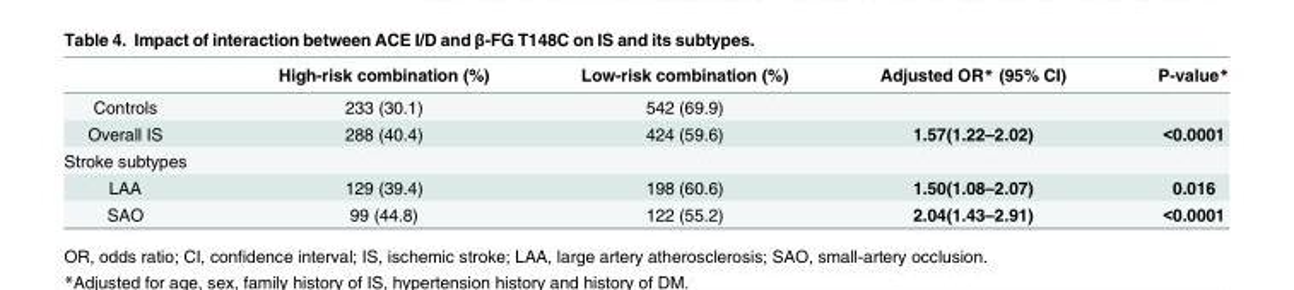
<table><thead><tr><td></td><td>High-risk combination (%)</td><td>Low-risk combination (%)</td><td>Adjusted OR* (95% CI)</td><td>P-value*</td></tr></thead><tbody><tr><td>Controls</td><td>233 (30.1)</td><td>542 (69.9)</td><td></td><td></td></tr><tr><td>Overall IS</td><td>288 (40.4)</td><td>424 (59.6)</td><td>1.57(1.22–2.02)</td><td>&lt;0.0001</td></tr><tr><td colspan="5">Stroke subtypes</td></tr><tr><td>LAA</td><td>129 (39.4)</td><td>198 (60.6)</td><td>1.50(1.08–2.07)</td><td>0.016</td></tr><tr><td>SAO</td><td>99 (44.8)</td><td>122 (55.2)</td><td>2.04(1.43–2.91)</td><td>&lt;0.0001</td></tr></tbody></table>